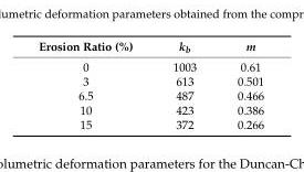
<table><thead><tr><td>Erosion Ratio (%)</td><td>k<sub>b</sub></td><td>m</td></tr></thead><tbody><tr><td>0</td><td>1003</td><td>0.61</td></tr><tr><td>3</td><td>613</td><td>0.501</td></tr><tr><td>6.5</td><td>487</td><td>0.466</td></tr><tr><td>10</td><td>423</td><td>0.386</td></tr><tr><td>15</td><td>372</td><td>0.266</td></tr></tbody></table>